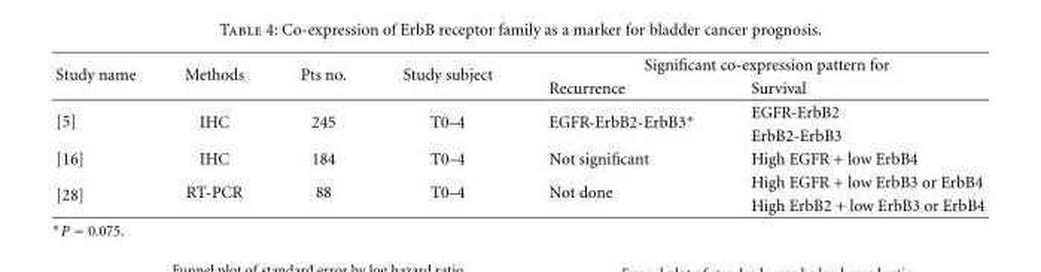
<table><thead><tr><td rowspan="2">Study name</td><td rowspan="2">Methods</td><td rowspan="2">Pts no.</td><td rowspan="2">Study subject</td><td colspan="2">Significant co-expression pattern for</td></tr><tr><td>Recurrence</td><td>Survival</td></tr></thead><tbody><tr><td rowspan="2">[5]</td><td rowspan="2">IHC</td><td rowspan="2">245</td><td rowspan="2">T0–4</td><td rowspan="2">EGFR-ErbB2-ErbB3∗</td><td>EGFR-ErbB2</td></tr><tr><td>ErbB2-ErbB3</td></tr><tr><td>[16]</td><td>IHC</td><td>184</td><td>T0–4</td><td>Not significant</td><td>High EGFR + low ErbB4</td></tr><tr><td rowspan="2">[28]</td><td rowspan="2">RT-PCR</td><td rowspan="2">88</td><td rowspan="2">T0–4</td><td rowspan="2">Not done</td><td>High EGFR + low ErbB3 or ErbB4</td></tr><tr><td>High ErbB2 + low ErbB3 or ErbB4</td></tr></tbody></table>